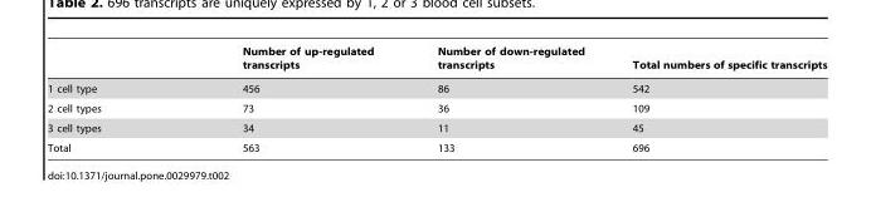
<table><thead><tr><td></td><td>Number of up-regulated transcripts</td><td>Number of down-regulated transcripts</td><td>Total numbers of specific transcripts</td></tr></thead><tbody><tr><td>1 cell type</td><td>456</td><td>86</td><td>542</td></tr><tr><td>2 cell types</td><td>73</td><td>36</td><td>109</td></tr><tr><td>3 cell types</td><td>34</td><td>11</td><td>45</td></tr><tr><td>Total</td><td>563</td><td>133</td><td>696</td></tr></tbody></table>